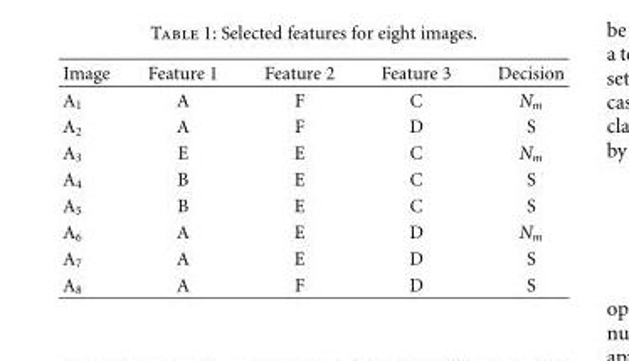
<table><thead><tr><td>Image</td><td>Feature 1</td><td>Feature 2</td><td>Feature 3</td><td>Decision</td></tr></thead><tbody><tr><td>A<sub>1</sub></td><td>A</td><td>F</td><td>C</td><td>N<sub>m</sub></td></tr><tr><td>A<sub>2</sub></td><td>A</td><td>F</td><td>D</td><td>S</td></tr><tr><td>A<sub>3</sub></td><td>E</td><td>E</td><td>C</td><td>N<sub>m</sub></td></tr><tr><td>A<sub>4</sub></td><td>B</td><td>E</td><td>C</td><td>S</td></tr><tr><td>A<sub>5</sub></td><td>B</td><td>E</td><td>C</td><td>S</td></tr><tr><td>A<sub>6</sub></td><td>A</td><td>E</td><td>D</td><td>N<sub>m</sub></td></tr><tr><td>A<sub>7</sub></td><td>A</td><td>E</td><td>D</td><td>S</td></tr><tr><td>A<sub>8</sub></td><td>A</td><td>F</td><td>D</td><td>S</td></tr></tbody></table>